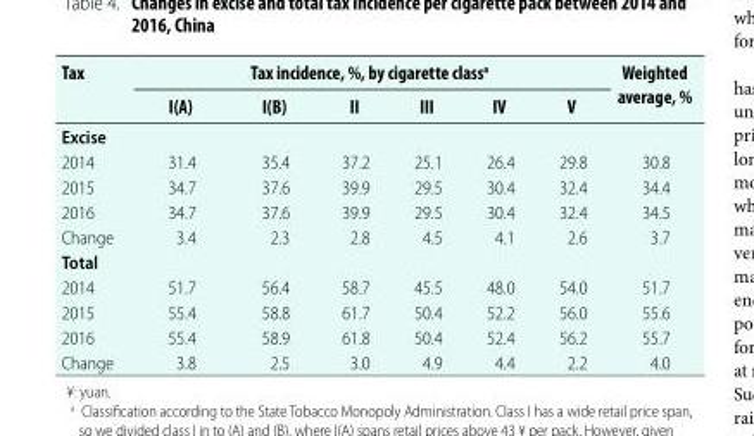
<table><thead><tr><td rowspan="2">Tax</td><td colspan="6">Tax incidence, %, by cigarette class<sup>a</sup></td><td rowspan="2">Weighted average, %</td></tr><tr><td>I(A)</td><td>I(B)</td><td>II</td><td>III</td><td>IV</td><td>V</td></tr></thead><tbody><tr><td colspan="8">Excise</td></tr><tr><td>2014</td><td>31.4</td><td>35.4</td><td>37.2</td><td>25.1</td><td>26.4</td><td>29.8</td><td>30.8</td></tr><tr><td>2015</td><td>34.7</td><td>37.6</td><td>39.9</td><td>29.5</td><td>30.4</td><td>32.4</td><td>34.4</td></tr><tr><td>2016</td><td>34.7</td><td>37.6</td><td>39.9</td><td>29.5</td><td>30.4</td><td>32.4</td><td>34.5</td></tr><tr><td>Change</td><td>3.4</td><td>2.3</td><td>2.8</td><td>4.5</td><td>4.1</td><td>2.6</td><td>3.7</td></tr><tr><td colspan="8">Total</td></tr><tr><td>2014</td><td>51.7</td><td>56.4</td><td>58.7</td><td>45.5</td><td>48.0</td><td>54.0</td><td>51.7</td></tr><tr><td>2015</td><td>55.4</td><td>58.8</td><td>61.7</td><td>50.4</td><td>52.2</td><td>56.0</td><td>55.6</td></tr><tr><td>2016</td><td>55.4</td><td>58.9</td><td>61.8</td><td>50.4</td><td>52.4</td><td>56.2</td><td>55.7</td></tr><tr><td>Change</td><td>3.8</td><td>2.5</td><td>3.0</td><td>4.9</td><td>4.4</td><td>2.2</td><td>4.0</td></tr></tbody></table>